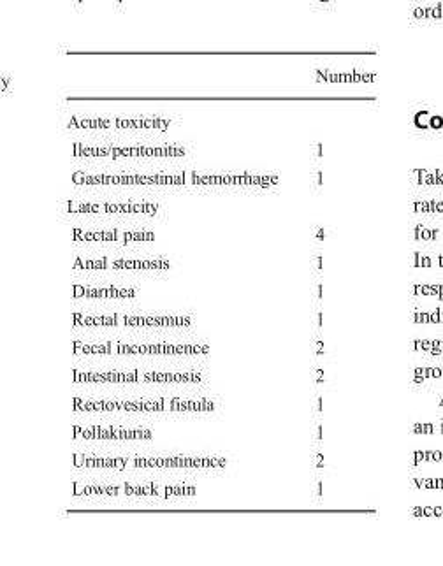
<table><thead><tr><td></td><td>Number</td></tr></thead><tbody><tr><td colspan="2">Acute toxicity</td></tr><tr><td>Ileus/peritonitis</td><td>1</td></tr><tr><td>Gastrointestinal hemorrhage</td><td>1</td></tr><tr><td colspan="2">Late toxicity</td></tr><tr><td>Rectal pain</td><td>4</td></tr><tr><td>Anal stenosis</td><td>1</td></tr><tr><td>Diarrhea</td><td>1</td></tr><tr><td>Rectal tenesmus</td><td>1</td></tr><tr><td>Fecal incontinence</td><td>2</td></tr><tr><td>Intestinal stenosis</td><td>2</td></tr><tr><td>Rectovesical fistula</td><td>1</td></tr><tr><td>Pollakiuria</td><td>1</td></tr><tr><td>Urinary incontinence</td><td>2</td></tr><tr><td>Lower back pain</td><td>1</td></tr></tbody></table>